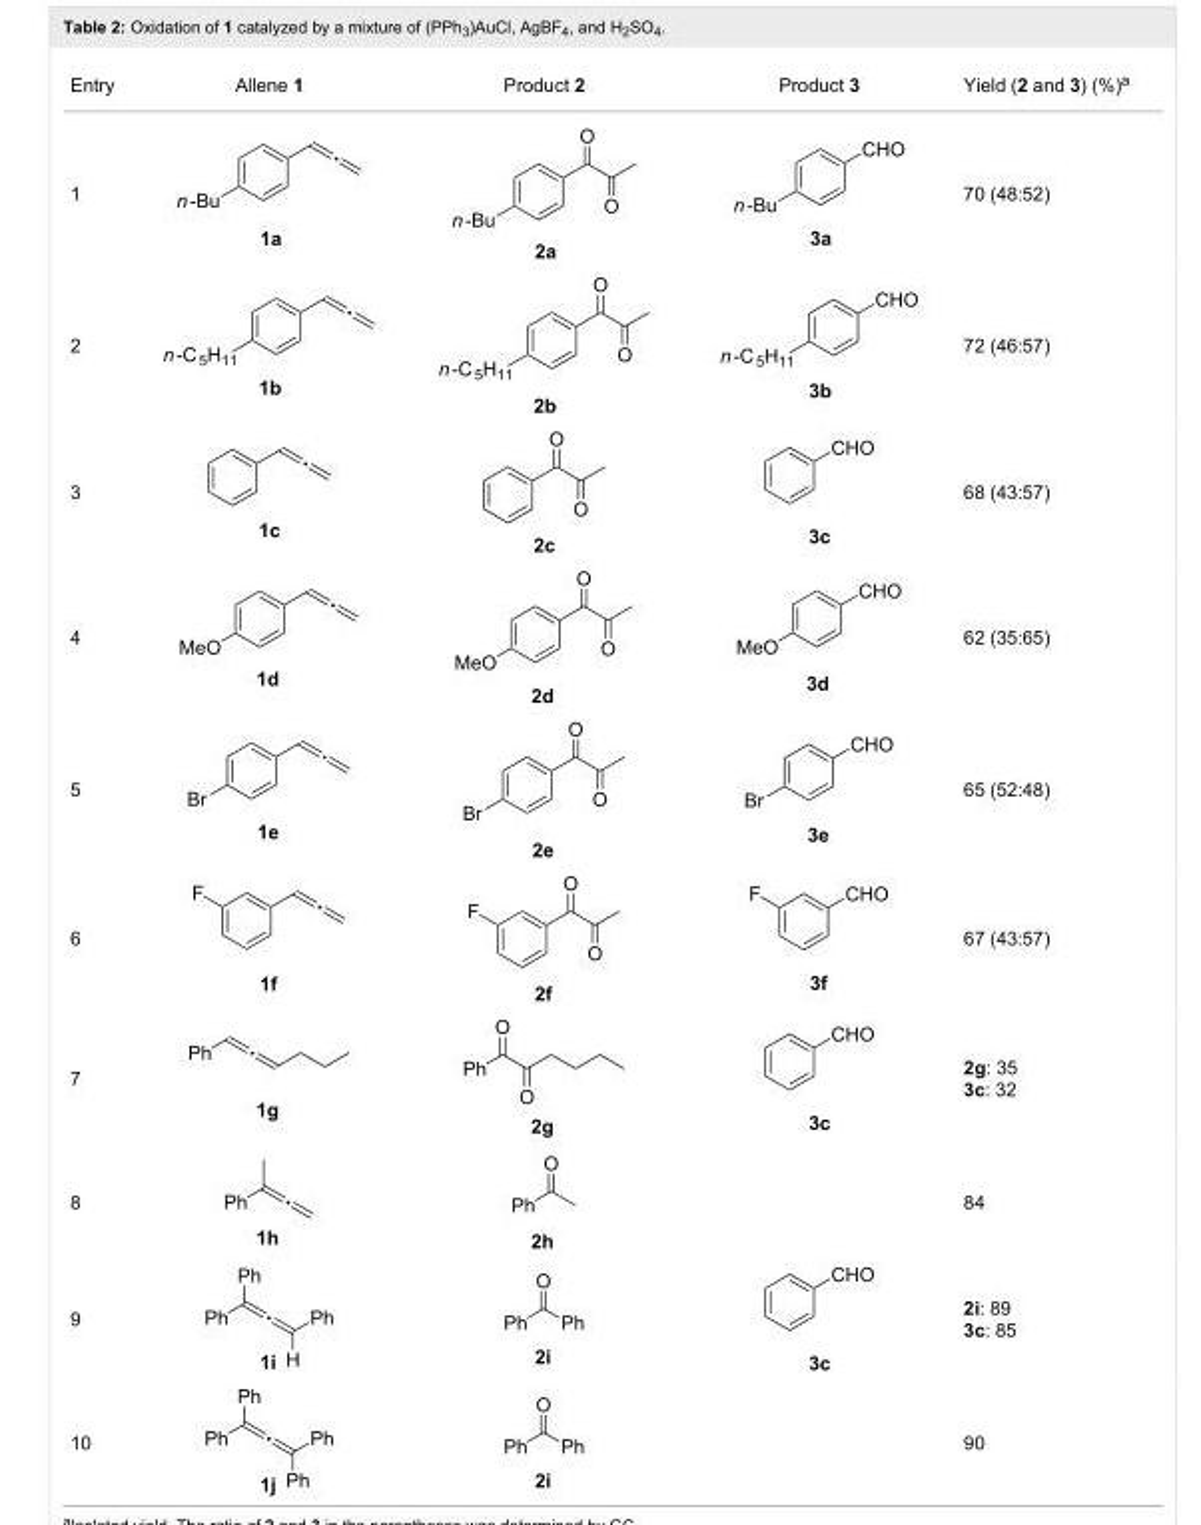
<table><tbody><tr><td>Entry</td><td>Allene 1</td><td>Product 2</td><td>Product 3</td><td>Yield (2 and 3) (%)<sup>a</sup></td></tr><tr><td>1</td><td></td><td></td><td></td><td>70 (48:52)</td></tr><tr><td>2</td><td></td><td></td><td></td><td>72 (46:57)</td></tr><tr><td>3</td><td></td><td></td><td></td><td>68 (43:57)</td></tr><tr><td>4</td><td></td><td></td><td></td><td>62 (35:65)</td></tr><tr><td>5</td><td></td><td></td><td></td><td>65 (52:48)</td></tr><tr><td>6</td><td></td><td></td><td></td><td>67 (43:57)</td></tr><tr><td>7</td><td></td><td></td><td></td><td>2g: 35 3c: 32</td></tr><tr><td>8</td><td></td><td></td><td></td><td>84</td></tr><tr><td>9</td><td></td><td></td><td></td><td>2i: 89 3c: 85</td></tr><tr><td>10</td><td></td><td></td><td></td><td>90</td></tr></tbody></table>